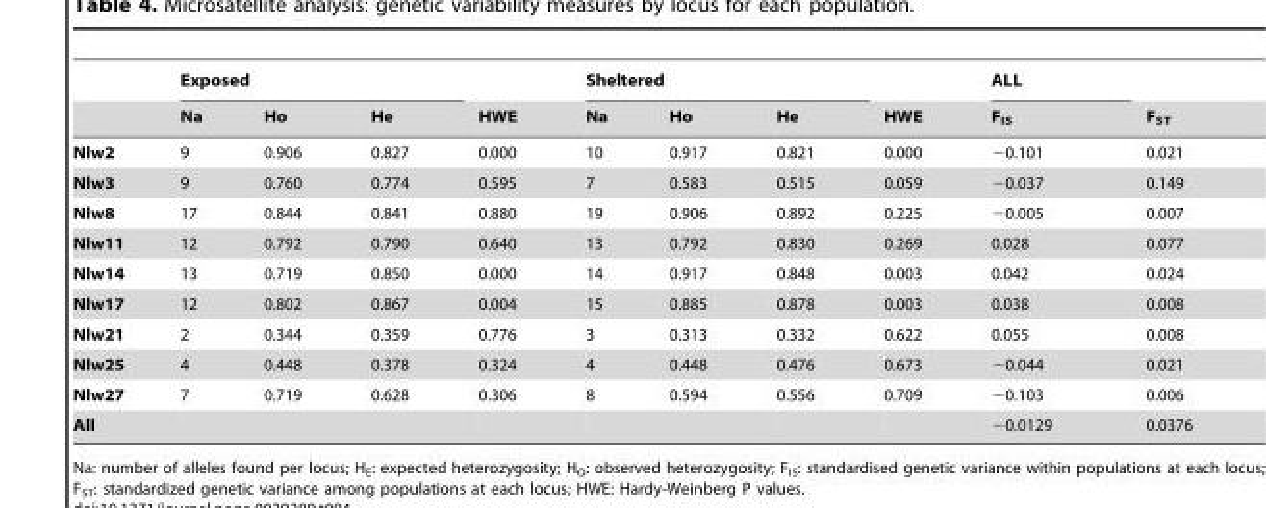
<table><thead><tr><td rowspan="2"></td><td colspan="3">Exposed</td><td rowspan="2">HWE</td><td colspan="3">Sheltered</td><td rowspan="2">HWE</td><td rowspan="2">ALL FIS</td><td rowspan="2">F<sub>ST</sub></td></tr><tr><td>Na</td><td>Ho</td><td>He</td><td>Na</td><td>Ho</td><td>He</td></tr></thead><tbody><tr><td>Nlw2</td><td>9</td><td>0.906</td><td>0.827</td><td>0.000</td><td>10</td><td>0.917</td><td>0.821</td><td>0.000</td><td>−0.101</td><td>0.021</td></tr><tr><td>Nlw3</td><td>9</td><td>0.760</td><td>0.774</td><td>0.595</td><td>7</td><td>0.583</td><td>0.515</td><td>0.059</td><td>−0.037</td><td>0.149</td></tr><tr><td>Nlw8</td><td>17</td><td>0.844</td><td>0.841</td><td>0.880</td><td>19</td><td>0.906</td><td>0.892</td><td>0.225</td><td>−0.005</td><td>0.007</td></tr><tr><td>Nlw11</td><td>12</td><td>0.792</td><td>0.790</td><td>0.640</td><td>13</td><td>0.792</td><td>0.830</td><td>0.269</td><td>0.028</td><td>0.077</td></tr><tr><td>Nlw14</td><td>13</td><td>0.719</td><td>0.850</td><td>0.000</td><td>14</td><td>0.917</td><td>0.848</td><td>0.003</td><td>0.042</td><td>0.024</td></tr><tr><td>Nlw17</td><td>12</td><td>0.802</td><td>0.867</td><td>0.004</td><td>15</td><td>0.885</td><td>0.878</td><td>0.003</td><td>0.038</td><td>0.008</td></tr><tr><td>Nlw21</td><td>2</td><td>0.344</td><td>0.359</td><td>0.776</td><td>3</td><td>0.313</td><td>0.332</td><td>0.622</td><td>0.055</td><td>0.008</td></tr><tr><td>Nlw25</td><td>4</td><td>0.448</td><td>0.378</td><td>0.324</td><td>4</td><td>0.448</td><td>0.476</td><td>0.673</td><td>−0.044</td><td>0.021</td></tr><tr><td>Nlw27</td><td>7</td><td>0.719</td><td>0.628</td><td>0.306</td><td>8</td><td>0.594</td><td>0.556</td><td>0.709</td><td>−0.103</td><td>0.006</td></tr><tr><td>All</td><td></td><td></td><td></td><td></td><td></td><td></td><td></td><td></td><td>−0.0129</td><td>0.0376</td></tr></tbody></table>